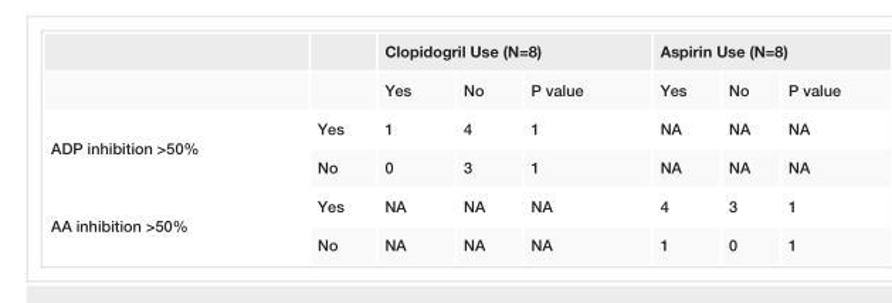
<table><thead><tr><td rowspan="2"></td><td rowspan="2"></td><td colspan="3">Clopidogril Use (N=8)</td><td colspan="3">Aspirin Use (N=8)</td></tr><tr><td>Yes</td><td>No</td><td>P value</td><td>Yes</td><td>No</td><td>P value</td></tr></thead><tbody><tr><td rowspan="2">ADP inhibition &gt;50%</td><td>Yes</td><td>1</td><td>4</td><td>1</td><td>NA</td><td>NA</td><td>NA</td></tr><tr><td>No</td><td>0</td><td>3</td><td>1</td><td>NA</td><td>NA</td><td>NA</td></tr><tr><td rowspan="2">AA inhibition &gt;50%</td><td>Yes</td><td>NA</td><td>NA</td><td>NA</td><td>4</td><td>3</td><td>1</td></tr><tr><td>No</td><td>NA</td><td>NA</td><td>NA</td><td>1</td><td>0</td><td>1</td></tr></tbody></table>